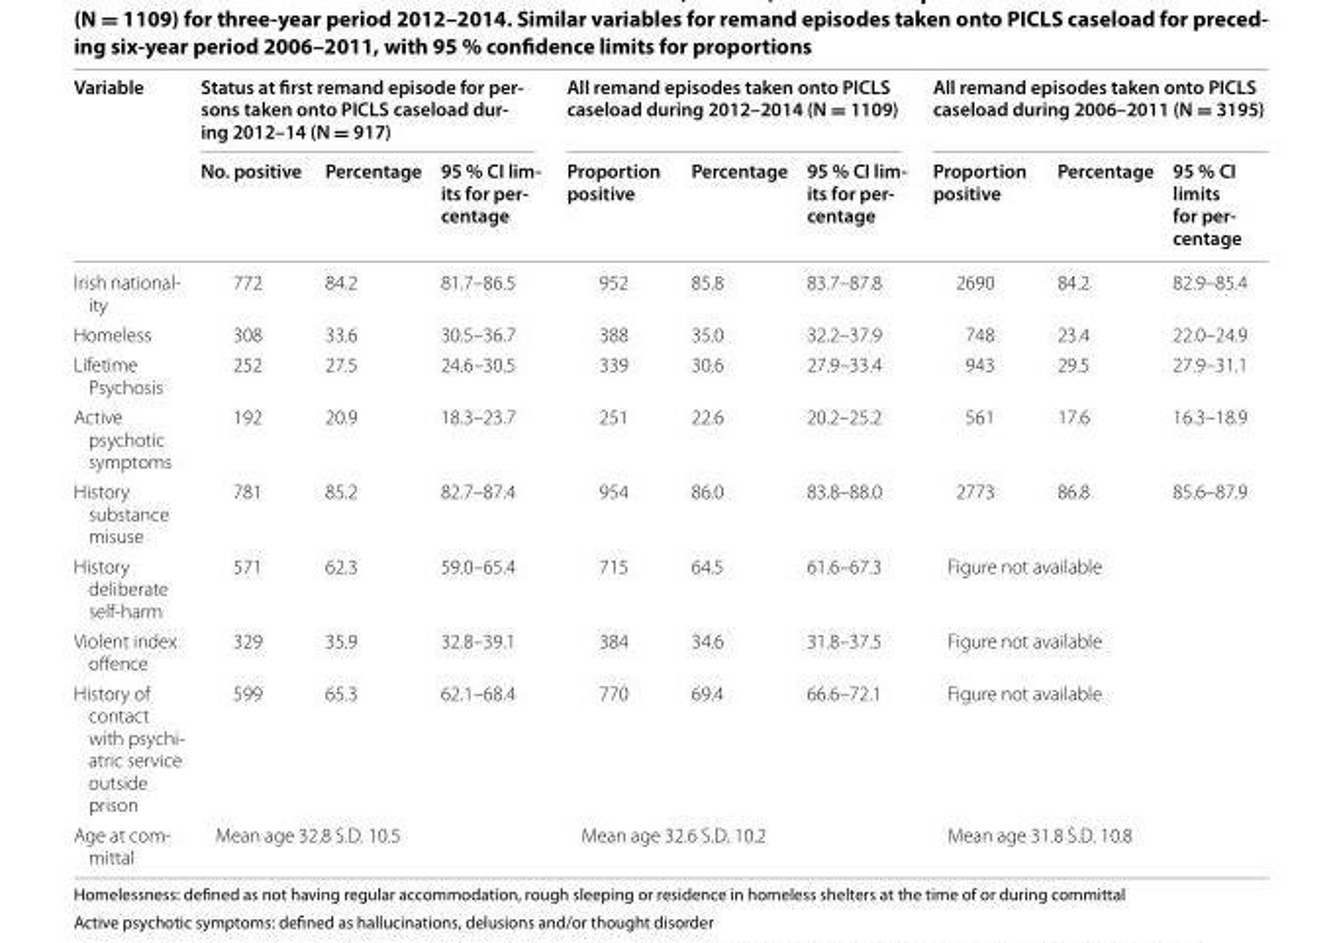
<table><thead><tr><td rowspan="2">Variable</td><td colspan="3">Status at first remand episode for per‑ sons taken onto PICLS caseload dur‑ ing 2012–14 (N = 917)</td><td colspan="3">All remand episodes taken onto PICLS caseload during 2012–2014 (N = 1109)</td><td colspan="3">All remand episodes taken onto PICLS caseload during 2006–2011 (N = 3195)</td></tr><tr><td>No. positive</td><td>Percentage</td><td>95 % CI lim‑ its for per‑ centage</td><td>Proportion positive</td><td>Percentage</td><td>95 % CI lim‑ its for per‑ centage</td><td>Proportion positive</td><td>Percentage</td><td>95 % CI limits for per‑ centage</td></tr></thead><tbody><tr><td>Irish national- ity</td><td>772</td><td>84.2</td><td>81.7–86.5</td><td>952</td><td>85.8</td><td>83.7–87.8</td><td>2690</td><td>84.2</td><td>82.9–85.4</td></tr><tr><td>Homeless</td><td>308</td><td>33.6</td><td>30.5–36.7</td><td>388</td><td>35.0</td><td>32.2–37.9</td><td>748</td><td>23.4</td><td>22.0–24.9</td></tr><tr><td>Lifetime Psychosis</td><td>252</td><td>27.5</td><td>24.6–30.5</td><td>339</td><td>30.6</td><td>27.9–33.4</td><td>943</td><td>29.5</td><td>27.9–31.1</td></tr><tr><td>Active psychotic symptoms</td><td>192</td><td>20.9</td><td>18.3–23.7</td><td>251</td><td>22.6</td><td>20.2–25.2</td><td>561</td><td>17.6</td><td>16.3–18.9</td></tr><tr><td>History substance misuse</td><td>781</td><td>85.2</td><td>82.7–87.4</td><td>954</td><td>86.0</td><td>83.8–88.0</td><td>2773</td><td>86.8</td><td>85.6–87.9</td></tr><tr><td>History deliberate self-harm</td><td>571</td><td>62.3</td><td>59.0–65.4</td><td>715</td><td>64.5</td><td>61.6–67.3</td><td colspan="3">Figure not available</td></tr><tr><td>Violent index offence</td><td>329</td><td>35.9</td><td>32.8–39.1</td><td>384</td><td>34.6</td><td>31.8–37.5</td><td colspan="3">Figure not available</td></tr><tr><td>History of contact with psychi- atric service outside prison</td><td>599</td><td>65.3</td><td>62.1–68.4</td><td>770</td><td>69.4</td><td>66.6–72.1</td><td colspan="3">Figure not available</td></tr><tr><td>Age at com- mittal</td><td colspan="3">Mean age 32.8 S.D. 10.5</td><td colspan="3">Mean age 32.6 S.D. 10.2</td><td colspan="3">Mean age 31.8 S.D. 10.8</td></tr></tbody></table>